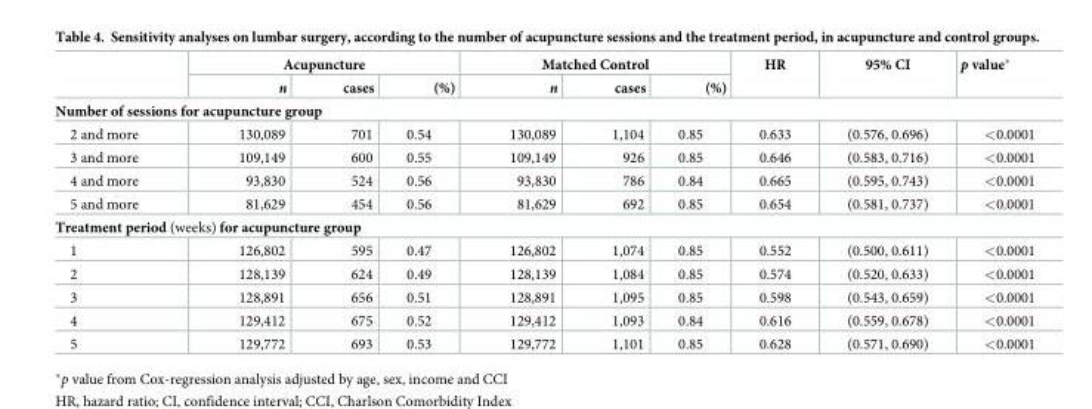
<table><thead><tr><td rowspan="2"></td><td colspan="3">Acupuncture</td><td colspan="3">Matched Control</td><td rowspan="2">HR</td><td rowspan="2">95% CI</td><td rowspan="2">p value*</td></tr><tr><td>n</td><td>cases</td><td>(%)</td><td>n</td><td>cases</td><td>(%)</td></tr></thead><tbody><tr><td colspan="10">Number of sessions for acupuncture group</td></tr><tr><td>2 and more</td><td>130,089</td><td>701</td><td>0.54</td><td>130,089</td><td>1,104</td><td>0.85</td><td>0.633</td><td>(0.576, 0.696)</td><td>&lt;0.0001</td></tr><tr><td>3 and more</td><td>109,149</td><td>600</td><td>0.55</td><td>109,149</td><td>926</td><td>0.85</td><td>0.646</td><td>(0.583, 0.716)</td><td>&lt;0.0001</td></tr><tr><td>4 and more</td><td>93,830</td><td>524</td><td>0.56</td><td>93,830</td><td>786</td><td>0.84</td><td>0.665</td><td>(0.595, 0.743)</td><td>&lt;0.0001</td></tr><tr><td>5 and more</td><td>81,629</td><td>454</td><td>0.56</td><td>81,629</td><td>692</td><td>0.85</td><td>0.654</td><td>(0.581, 0.737)</td><td>&lt;0.0001</td></tr><tr><td colspan="10">Treatment period (weeks) for acupuncture group</td></tr><tr><td>1</td><td>126,802</td><td>595</td><td>0.47</td><td>126,802</td><td>1,074</td><td>0.85</td><td>0.552</td><td>(0.500, 0.611)</td><td>&lt;0.0001</td></tr><tr><td>2</td><td>128,139</td><td>624</td><td>0.49</td><td>128,139</td><td>1,084</td><td>0.85</td><td>0.574</td><td>(0.520, 0.633)</td><td>&lt;0.0001</td></tr><tr><td>3</td><td>128,891</td><td>656</td><td>0.51</td><td>128,891</td><td>1,095</td><td>0.85</td><td>0.598</td><td>(0.543, 0.659)</td><td>&lt;0.0001</td></tr><tr><td>4</td><td>129,412</td><td>675</td><td>0.52</td><td>129,412</td><td>1,093</td><td>0.84</td><td>0.616</td><td>(0.559, 0.678)</td><td>&lt;0.0001</td></tr><tr><td>5</td><td>129,772</td><td>693</td><td>0.53</td><td>129,772</td><td>1,101</td><td>0.85</td><td>0.628</td><td>(0.571, 0.690)</td><td>&lt;0.0001</td></tr></tbody></table>